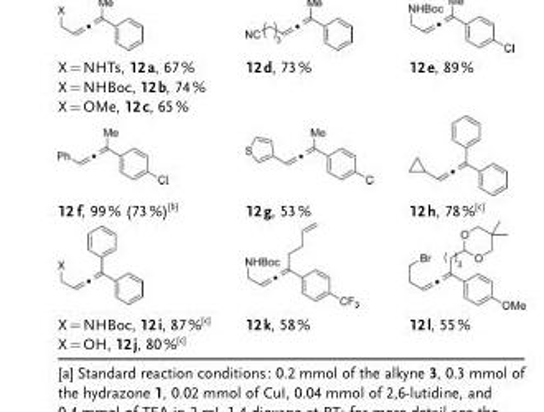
<table><tbody><tr><td>X=NHTs, 12a, 67% X=NHBoc, 12b, 74% X=OMe, 12c, 65%</td><td>12d, 73%</td><td>12e, 89%</td></tr><tr><td>12 f, 99% (73%)[b]</td><td>12g, 53%</td><td>12h, 78%[c]</td></tr><tr><td>X=NHBoc, 12i, 87%[c] X=OH, 12j, 80%[c]</td><td>12k, 58%</td><td>12l, 55%</td></tr></tbody></table>